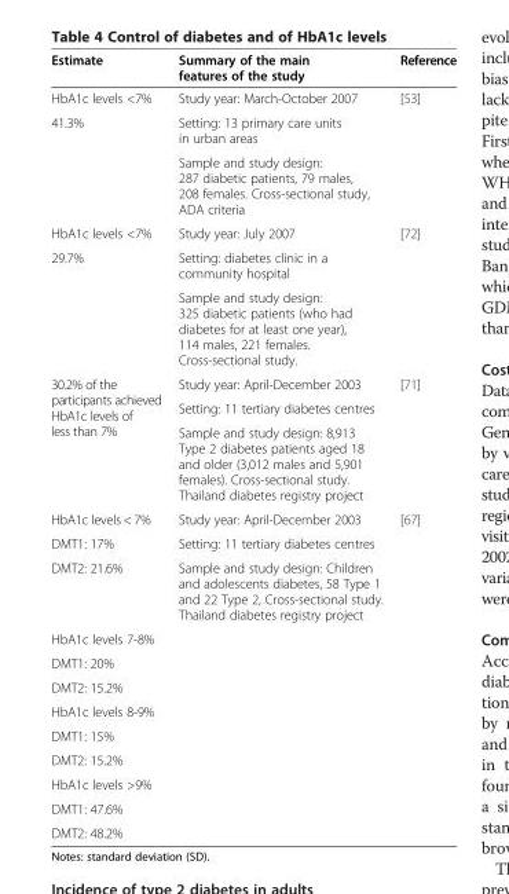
<table><thead><tr><td>Estimate</td><td>Summary of the main features of the study</td><td>Reference</td></tr></thead><tbody><tr><td>HbA1c levels &lt;7%</td><td>Study year: March-October 2007</td><td rowspan="3">[53]</td></tr><tr><td rowspan="2">41.3%</td><td>Setting: 13 primary care units in urban areas</td></tr><tr><td>Sample and study design: 287 diabetic patients, 79 males, 208 females. Cross-sectional study, ADA criteria</td></tr><tr><td>HbA1c levels &lt;7%</td><td>Study year: July 2007</td><td rowspan="3">[72]</td></tr><tr><td rowspan="2">29.7%</td><td>Setting: diabetes clinic in a community hospital</td></tr><tr><td>Sample and study design: 325 diabetic patients (who had diabetes for at least one year), 114 males, 221 females. Cross-sectional study.</td></tr><tr><td rowspan="3">30.2% of the participants achieved HbA1c levels of less than 7%</td><td>Study year: April-December 2003</td><td rowspan="3">[71]</td></tr><tr><td>Setting: 11 tertiary diabetes centres</td></tr><tr><td>Sample and study design: 8,913 Type 2 diabetes patients aged 18 and older (3,012 males and 5,901 females). Cross-sectional study. Thailand diabetes registry project</td></tr><tr><td>HbA1c levels &lt; 7%</td><td>Study year: April-December 2003</td><td rowspan="11">[67]</td></tr><tr><td>DMT1: 17%</td><td>Setting: 11 tertiary diabetes centres</td></tr><tr><td>DMT2: 21.6%</td><td>Sample and study design: Children and adolescents diabetes, 58 Type 1 and 22 Type 2, Cross-sectional study. Thailand diabetes registry project</td></tr><tr><td colspan="2">HbA1c levels 7-8%</td></tr><tr><td colspan="2">DMT1: 20%</td></tr><tr><td colspan="2">DMT2: 15.2%</td></tr><tr><td colspan="2">HbA1c levels 8-9%</td></tr><tr><td colspan="2">DMT1: 15%</td></tr><tr><td colspan="2">DMT2: 15.2%</td></tr><tr><td colspan="2">HbA1c levels &gt;9%</td></tr><tr><td colspan="2">DMT1: 47.6%</td></tr><tr><td>DMT2: 48.2%</td><td></td><td></td></tr></tbody></table>